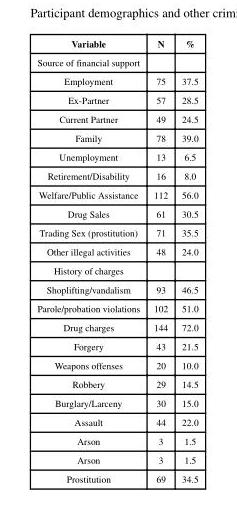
<table><thead><tr><td>Variable</td><td>N</td><td>%</td></tr></thead><tbody><tr><td colspan="3">Source of financial support</td></tr><tr><td>Employment</td><td>75</td><td>37.5</td></tr><tr><td>Ex-Partner</td><td>57</td><td>28.5</td></tr><tr><td>Current Partner</td><td>49</td><td>24.5</td></tr><tr><td>Family</td><td>78</td><td>39.0</td></tr><tr><td>Unemployment</td><td>13</td><td>6.5</td></tr><tr><td>Retirement/Disability</td><td>16</td><td>8.0</td></tr><tr><td>Welfare/Public Assistance</td><td>112</td><td>56.0</td></tr><tr><td>Drug Sales</td><td>61</td><td>30.5</td></tr><tr><td>Trading Sex (prostitution)</td><td>71</td><td>35.5</td></tr><tr><td>Other illegal activities</td><td>48</td><td>24.0</td></tr><tr><td colspan="3">History of charges</td></tr><tr><td>Shoplifting/vandalism</td><td>93</td><td>46.5</td></tr><tr><td>Parole/probation violations</td><td>102</td><td>51.0</td></tr><tr><td>Drug charges</td><td>144</td><td>72.0</td></tr><tr><td>Forgery</td><td>43</td><td>21.5</td></tr><tr><td>Weapons offenses</td><td>20</td><td>10.0</td></tr><tr><td>Robbery</td><td>29</td><td>14.5</td></tr><tr><td>Burglary/Larceny</td><td>30</td><td>15.0</td></tr><tr><td>Assault</td><td>44</td><td>22.0</td></tr><tr><td>Arson</td><td>3</td><td>1.5</td></tr><tr><td>Arson</td><td>3</td><td>1.5</td></tr><tr><td>Prostitution</td><td>69</td><td>34.5</td></tr></tbody></table>